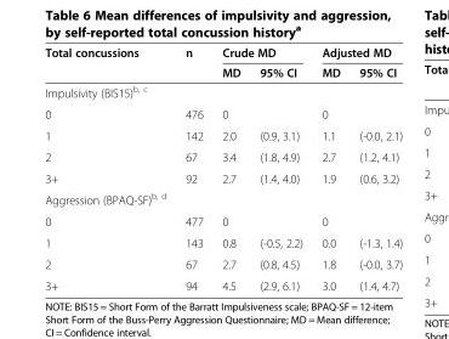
<table><thead><tr><td rowspan="2">Total concussions</td><td rowspan="2">n</td><td colspan="2">Crude MD</td><td colspan="2">Adjusted MD</td></tr><tr><td>MD</td><td>95% CI</td><td>MD</td><td>95% CI</td></tr></thead><tbody><tr><td colspan="6">Impulsivity (BIS15)<sup>b, c</sup></td></tr><tr><td>0</td><td>476</td><td>0</td><td></td><td>0</td><td></td></tr><tr><td>1</td><td>142</td><td>2.0</td><td>(0.9, 3.1)</td><td>1.1</td><td>(-0.0, 2.1)</td></tr><tr><td>2</td><td>67</td><td>3.4</td><td>(1.8, 4.9)</td><td>2.7</td><td>(1.2, 4.1)</td></tr><tr><td>3+</td><td>92</td><td>2.7</td><td>(1.4, 4.0)</td><td>1.9</td><td>(0.6, 3.2)</td></tr><tr><td colspan="6">Aggression (BPAQ-SF)<sup>b, d</sup></td></tr><tr><td>0</td><td>477</td><td>0</td><td></td><td>0</td><td></td></tr><tr><td>1</td><td>143</td><td>0.8</td><td>(-0.5, 2.2)</td><td>0.0</td><td>(-1.3, 1.4)</td></tr><tr><td>2</td><td>67</td><td>2.7</td><td>(0.8, 4.5)</td><td>1.8</td><td>(-0.0, 3.7)</td></tr><tr><td>3+</td><td>94</td><td>4.5</td><td>(2.9, 6.1)</td><td>3.0</td><td>(1.4, 4.7)</td></tr></tbody></table>